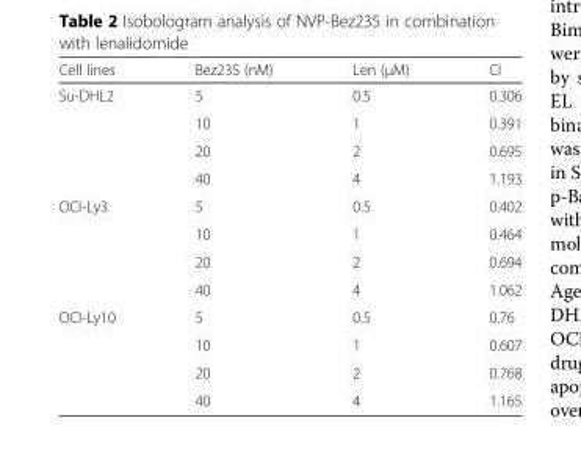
<table><thead><tr><td>Cell lines</td><td>Bez235 (nM)</td><td>Len (μM)</td><td>CI</td></tr></thead><tbody><tr><td rowspan="4">Su-DHL2</td><td>5</td><td>0.5</td><td>0.306</td></tr><tr><td>10</td><td>1</td><td>0.391</td></tr><tr><td>20</td><td>2</td><td>0.695</td></tr><tr><td>40</td><td>4</td><td>1.193</td></tr><tr><td rowspan="4">OCI-Ly3</td><td>5</td><td>0.5</td><td>0.402</td></tr><tr><td>10</td><td>1</td><td>0.464</td></tr><tr><td>20</td><td>2</td><td>0.694</td></tr><tr><td>40</td><td>4</td><td>1.062</td></tr><tr><td rowspan="4">OCI-Ly10</td><td>5</td><td>0.5</td><td>0.76</td></tr><tr><td>10</td><td>1</td><td>0.607</td></tr><tr><td>20</td><td>2</td><td>0.768</td></tr><tr><td>40</td><td>4</td><td>1.165</td></tr></tbody></table>